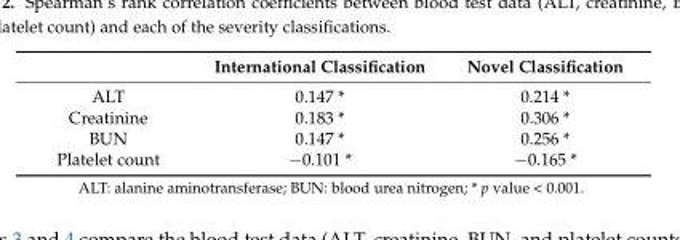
<table><thead><tr><td></td><td>International Classification</td><td>Novel Classification</td></tr></thead><tbody><tr><td>ALT</td><td>0.147 *</td><td>0.214 *</td></tr><tr><td>Creatinine</td><td>0.183 *</td><td>0.306 *</td></tr><tr><td>BUN</td><td>0.147 *</td><td>0.256 *</td></tr><tr><td>Platelet count</td><td>−0.101 *</td><td>−0.165 *</td></tr></tbody></table>